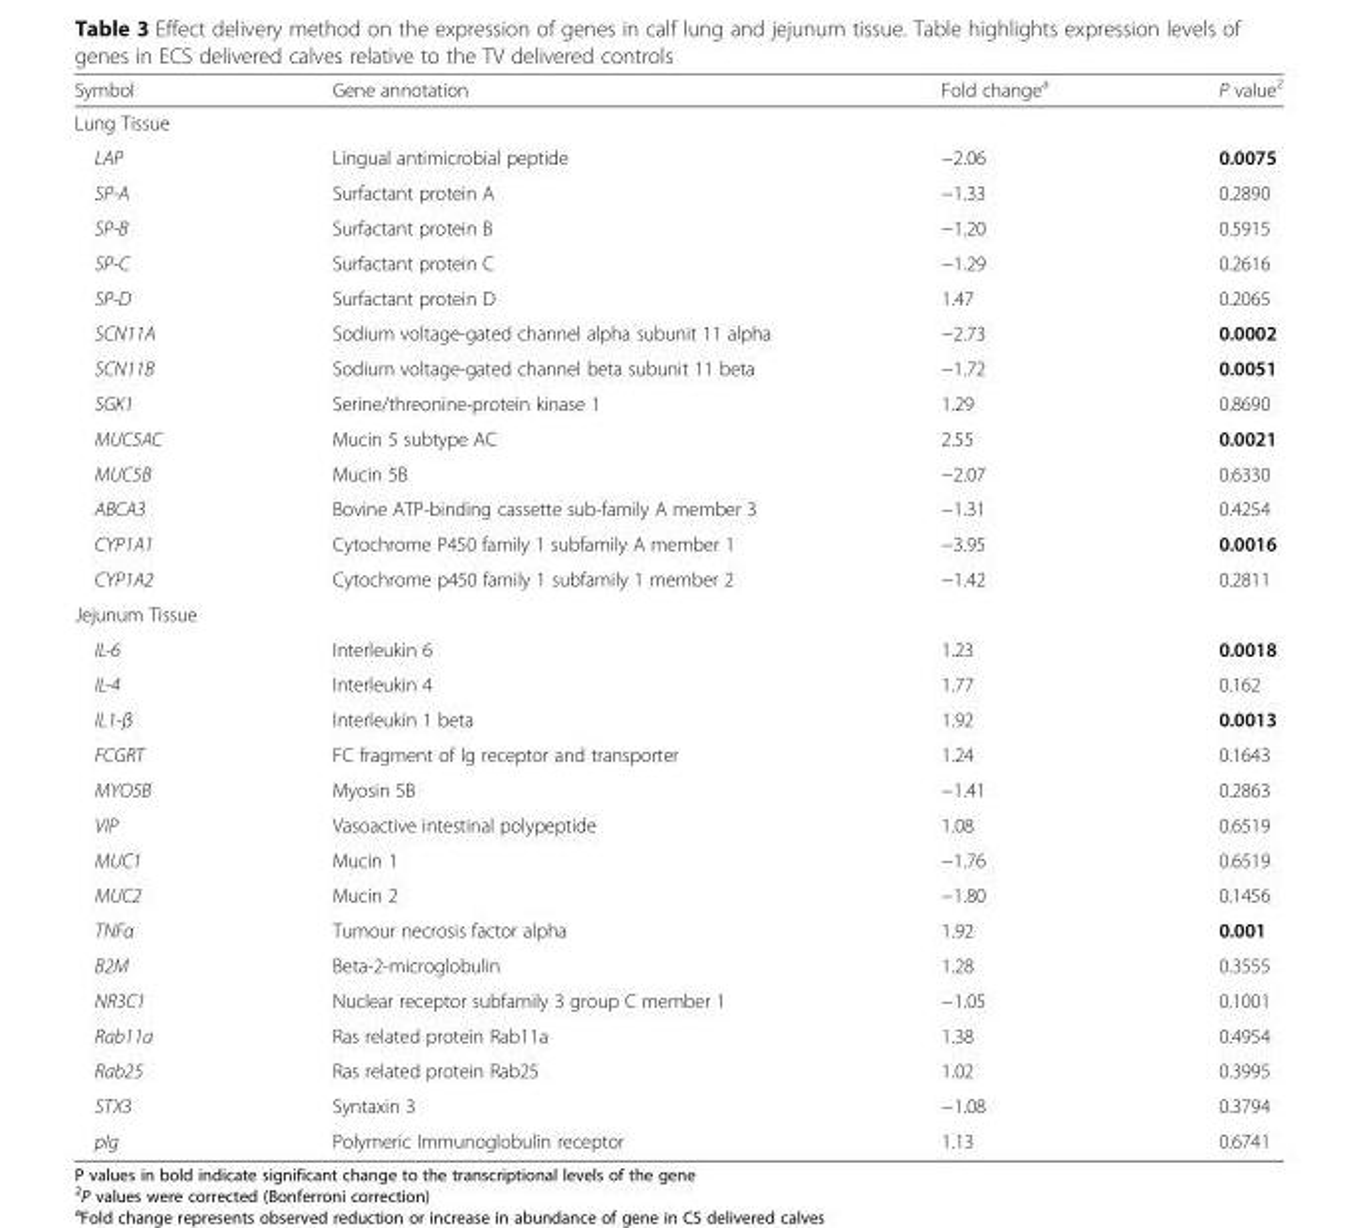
<table><thead><tr><td>Symbol</td><td>Gene annotation</td><td>Fold change<sup>a</sup></td><td>P value<sup>2</sup></td></tr></thead><tbody><tr><td colspan="4">Lung Tissue</td></tr><tr><td>LAP</td><td>Lingual antimicrobial peptide</td><td>−2.06</td><td>0.0075</td></tr><tr><td>SP-A</td><td>Surfactant protein A</td><td>−1.33</td><td>0.2890</td></tr><tr><td>SP-B</td><td>Surfactant protein B</td><td>−1.20</td><td>0.5915</td></tr><tr><td>SP-C</td><td>Surfactant protein C</td><td>−1.29</td><td>0.2616</td></tr><tr><td>SP-D</td><td>Surfactant protein D</td><td>1.47</td><td>0.2065</td></tr><tr><td>SCN11A</td><td>Sodium voltage-gated channel alpha subunit 11 alpha</td><td>−2.73</td><td>0.0002</td></tr><tr><td>SCN11B</td><td>Sodium voltage-gated channel beta subunit 11 beta</td><td>−1.72</td><td>0.0051</td></tr><tr><td>SGK1</td><td>Serine/threonine-protein kinase 1</td><td>1.29</td><td>0.8690</td></tr><tr><td>MUC5AC</td><td>Mucin 5 subtype AC</td><td>2.55</td><td>0.0021</td></tr><tr><td>MUC5B</td><td>Mucin 5B</td><td>−2.07</td><td>0.6330</td></tr><tr><td>ABCA3</td><td>Bovine ATP-binding cassette sub-family A member 3</td><td>−1.31</td><td>0.4254</td></tr><tr><td>CYP1A1</td><td>Cytochrome P450 family 1 subfamily A member 1</td><td>−3.95</td><td>0.0016</td></tr><tr><td>CYP1A2</td><td>Cytochrome p450 family 1 subfamily 1 member 2</td><td>−1.42</td><td>0.2811</td></tr><tr><td colspan="4">Jejunum Tissue</td></tr><tr><td>IL-6</td><td>Interleukin 6</td><td>1.23</td><td>0.0018</td></tr><tr><td>IL-4</td><td>Interleukin 4</td><td>1.77</td><td>0.162</td></tr><tr><td>IL1-β</td><td>Interleukin 1 beta</td><td>1.92</td><td>0.0013</td></tr><tr><td>FCGRT</td><td>FC fragment of Ig receptor and transporter</td><td>1.24</td><td>0.1643</td></tr><tr><td>MYO5B</td><td>Myosin 5B</td><td>−1.41</td><td>0.2863</td></tr><tr><td>VIP</td><td>Vasoactive intestinal polypeptide</td><td>1.08</td><td>0.6519</td></tr><tr><td>MUC1</td><td>Mucin 1</td><td>−1.76</td><td>0.6519</td></tr><tr><td>MUC2</td><td>Mucin 2</td><td>−1.80</td><td>0.1456</td></tr><tr><td>TNFα</td><td>Tumour necrosis factor alpha</td><td>1.92</td><td>0.001</td></tr><tr><td>B2M</td><td>Beta-2-microglobulin</td><td>1.28</td><td>0.3555</td></tr><tr><td>NR3C1</td><td>Nuclear receptor subfamily 3 group C member 1</td><td>−1.05</td><td>0.1001</td></tr><tr><td>Rab11a</td><td>Ras related protein Rab11a</td><td>1.38</td><td>0.4954</td></tr><tr><td>Rab25</td><td>Ras related protein Rab25</td><td>1.02</td><td>0.3995</td></tr><tr><td>STX3</td><td>Syntaxin 3</td><td>−1.08</td><td>0.3794</td></tr><tr><td>pIg</td><td>Polymeric Immunoglobulin receptor</td><td>1.13</td><td>0.6741</td></tr></tbody></table>